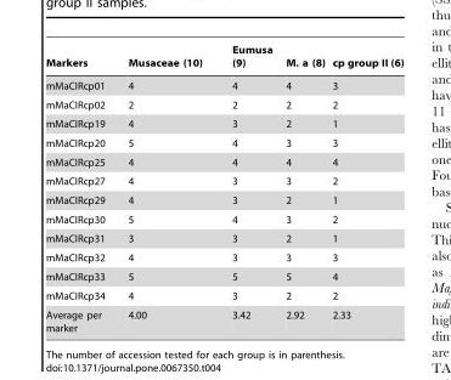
<table><thead><tr><td>Markers</td><td>Musaceae (10)</td><td>Eumusa (9)</td><td>M. a (8)</td><td>cp group II (6)</td></tr></thead><tbody><tr><td>mMaCIRcp01</td><td>4</td><td>4</td><td>4</td><td>3</td></tr><tr><td>mMaCIRcp02</td><td>2</td><td>2</td><td>2</td><td>2</td></tr><tr><td>mMaCIRcp19</td><td>4</td><td>3</td><td>2</td><td>1</td></tr><tr><td>mMaCIRcp20</td><td>5</td><td>4</td><td>3</td><td>3</td></tr><tr><td>mMaCIRcp25</td><td>4</td><td>4</td><td>4</td><td>4</td></tr><tr><td>mMaCIRcp27</td><td>4</td><td>3</td><td>3</td><td>2</td></tr><tr><td>mMaCIRcp29</td><td>4</td><td>3</td><td>2</td><td>1</td></tr><tr><td>mMaCIRcp30</td><td>5</td><td>4</td><td>3</td><td>2</td></tr><tr><td>mMaCIRcp31</td><td>3</td><td>3</td><td>2</td><td>1</td></tr><tr><td>mMaCIRcp32</td><td>4</td><td>3</td><td>3</td><td>3</td></tr><tr><td>mMaCIRcp33</td><td>5</td><td>5</td><td>5</td><td>4</td></tr><tr><td>mMaCIRcp34</td><td>4</td><td>3</td><td>2</td><td>2</td></tr><tr><td>Average per marker</td><td>4.00</td><td>3.42</td><td>2.92</td><td>2.33</td></tr></tbody></table>